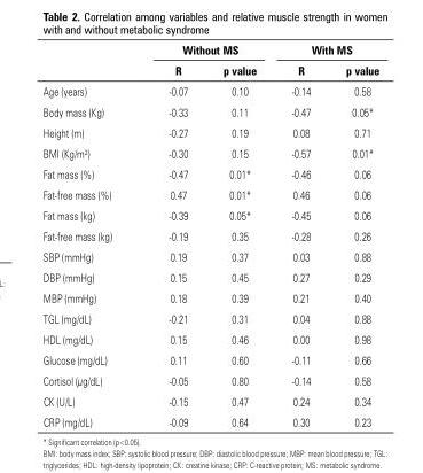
<table><thead><tr><td rowspan="2"></td><td colspan="2">Without MS</td><td colspan="2">With MS</td></tr><tr><td>R</td><td>p value</td><td>R</td><td>p value</td></tr></thead><tbody><tr><td>Age (years)</td><td>-0.07</td><td>0.10</td><td>-0.14</td><td>0.58</td></tr><tr><td>Body mass (Kg)</td><td>-0.33</td><td>0.11</td><td>-0.47</td><td>0.05*</td></tr><tr><td>Height (m)</td><td>-0.27</td><td>0.19</td><td>0.08</td><td>0.71</td></tr><tr><td>BMI (Kg/m²)</td><td>-0.30</td><td>0.15</td><td>-0.57</td><td>0.01*</td></tr><tr><td>Fat mass (%)</td><td>-0.47</td><td>0.01*</td><td>-0.46</td><td>0.06</td></tr><tr><td>Fat-free mass (%)</td><td>0.47</td><td>0.01*</td><td>0.46</td><td>0.06</td></tr><tr><td>Fat mass (kg)</td><td>-0.39</td><td>0.05*</td><td>-0.45</td><td>0.06</td></tr><tr><td>Fat-free mass (kg)</td><td>-0.19</td><td>0.35</td><td>-0.28</td><td>0.26</td></tr><tr><td>SBP (mmHg)</td><td>0.19</td><td>0.37</td><td>0.03</td><td>0.88</td></tr><tr><td>DBP (mmHg)</td><td>0.15</td><td>0.45</td><td>0.27</td><td>0.29</td></tr><tr><td>MBP (mmHg)</td><td>0.18</td><td>0.39</td><td>0.21</td><td>0.40</td></tr><tr><td>TGL (mg/dL)</td><td>-0.21</td><td>0.31</td><td>0.04</td><td>0.88</td></tr><tr><td>HDL (mg/dL)</td><td>0.15</td><td>0.46</td><td>0.00</td><td>0.98</td></tr><tr><td>Glucose (mg/dL)</td><td>0.11</td><td>0.60</td><td>-0.11</td><td>0.66</td></tr><tr><td>Cortisol (µg/dL)</td><td>-0.05</td><td>0.80</td><td>-0.14</td><td>0.58</td></tr><tr><td>CK (U/L)</td><td>-0.15</td><td>0.47</td><td>0.24</td><td>0.34</td></tr><tr><td>CRP (mg/dL)</td><td>-0.09</td><td>0.64</td><td>0.30</td><td>0.23</td></tr></tbody></table>